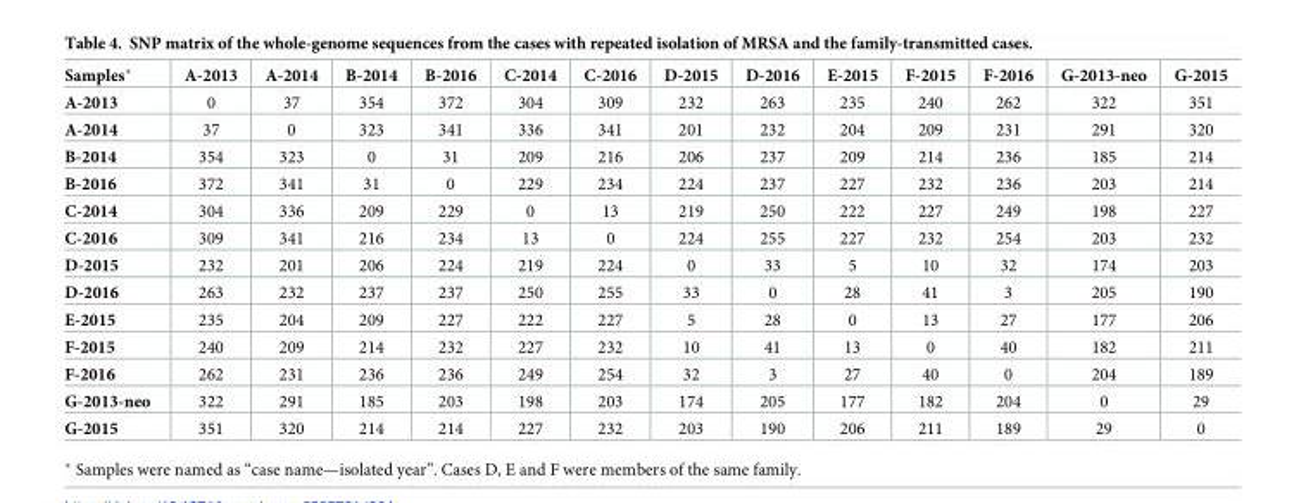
<table><thead><tr><td>Samples*</td><td>A-2013</td><td>A-2014</td><td>B-2014</td><td>B-2016</td><td>C-2014</td><td>C-2016</td><td>D-2015</td><td>D-2016</td><td>E-2015</td><td>F-2015</td><td>F-2016</td><td>G-2013-neo</td><td>G-2015</td></tr></thead><tbody><tr><td>A-2013</td><td>0</td><td>37</td><td>354</td><td>372</td><td>304</td><td>309</td><td>232</td><td>263</td><td>235</td><td>240</td><td>262</td><td>322</td><td>351</td></tr><tr><td>A-2014</td><td>37</td><td>0</td><td>323</td><td>341</td><td>336</td><td>341</td><td>201</td><td>232</td><td>204</td><td>209</td><td>231</td><td>291</td><td>320</td></tr><tr><td>B-2014</td><td>354</td><td>323</td><td>0</td><td>31</td><td>209</td><td>216</td><td>206</td><td>237</td><td>209</td><td>214</td><td>236</td><td>185</td><td>214</td></tr><tr><td>B-2016</td><td>372</td><td>341</td><td>31</td><td>0</td><td>229</td><td>234</td><td>224</td><td>237</td><td>227</td><td>232</td><td>236</td><td>203</td><td>214</td></tr><tr><td>C-2014</td><td>304</td><td>336</td><td>209</td><td>229</td><td>0</td><td>13</td><td>219</td><td>250</td><td>222</td><td>227</td><td>249</td><td>198</td><td>227</td></tr><tr><td>C-2016</td><td>309</td><td>341</td><td>216</td><td>234</td><td>13</td><td>0</td><td>224</td><td>255</td><td>227</td><td>232</td><td>254</td><td>203</td><td>232</td></tr><tr><td>D-2015</td><td>232</td><td>201</td><td>206</td><td>224</td><td>219</td><td>224</td><td>0</td><td>33</td><td>5</td><td>10</td><td>32</td><td>174</td><td>203</td></tr><tr><td>D-2016</td><td>263</td><td>232</td><td>237</td><td>237</td><td>250</td><td>255</td><td>33</td><td>0</td><td>28</td><td>41</td><td>3</td><td>205</td><td>190</td></tr><tr><td>E-2015</td><td>235</td><td>204</td><td>209</td><td>227</td><td>222</td><td>227</td><td>5</td><td>28</td><td>0</td><td>13</td><td>27</td><td>177</td><td>206</td></tr><tr><td>F-2015</td><td>240</td><td>209</td><td>214</td><td>232</td><td>227</td><td>232</td><td>10</td><td>41</td><td>13</td><td>0</td><td>40</td><td>182</td><td>211</td></tr><tr><td>F-2016</td><td>262</td><td>231</td><td>236</td><td>236</td><td>249</td><td>254</td><td>32</td><td>3</td><td>27</td><td>40</td><td>0</td><td>204</td><td>189</td></tr><tr><td>G-2013-neo</td><td>322</td><td>291</td><td>185</td><td>203</td><td>198</td><td>203</td><td>174</td><td>205</td><td>177</td><td>182</td><td>204</td><td>0</td><td>29</td></tr><tr><td>G-2015</td><td>351</td><td>320</td><td>214</td><td>214</td><td>227</td><td>232</td><td>203</td><td>190</td><td>206</td><td>211</td><td>189</td><td>29</td><td>0</td></tr></tbody></table>